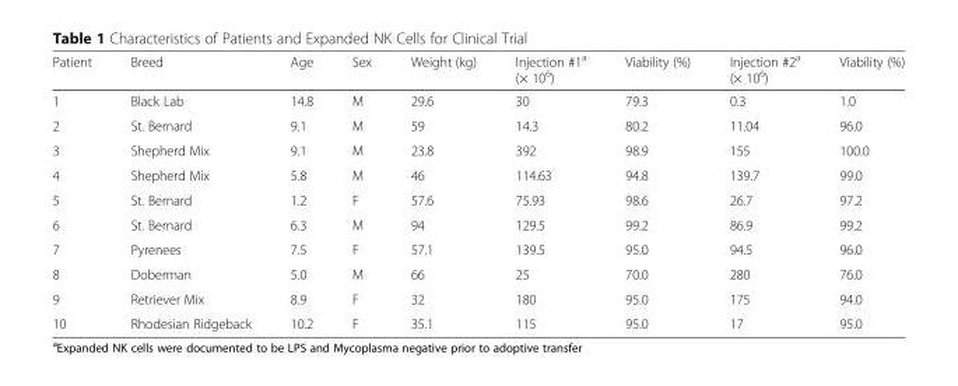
<table><thead><tr><td>Patient</td><td>Breed</td><td>Age</td><td>Sex</td><td>Weight (kg)</td><td>Injection #1<sup>a</sup> (× 10<sup>6</sup>)</td><td>Viability (%)</td><td>Injection #2<sup>a</sup> (× 10<sup>6</sup>)</td><td>Viability (%)</td></tr></thead><tbody><tr><td>1</td><td>Black Lab</td><td>14.8</td><td>M</td><td>29.6</td><td>30</td><td>79.3</td><td>0.3</td><td>1.0</td></tr><tr><td>2</td><td>St. Bernard</td><td>9.1</td><td>M</td><td>59</td><td>14.3</td><td>80.2</td><td>11.04</td><td>96.0</td></tr><tr><td>3</td><td>Shepherd Mix</td><td>9.1</td><td>M</td><td>23.8</td><td>392</td><td>98.9</td><td>155</td><td>100.0</td></tr><tr><td>4</td><td>Shepherd Mix</td><td>5.8</td><td>M</td><td>46</td><td>114.63</td><td>94.8</td><td>139.7</td><td>99.0</td></tr><tr><td>5</td><td>St. Bernard</td><td>1.2</td><td>F</td><td>57.6</td><td>75.93</td><td>98.6</td><td>26.7</td><td>97.2</td></tr><tr><td>6</td><td>St. Bernard</td><td>6.3</td><td>M</td><td>94</td><td>129.5</td><td>99.2</td><td>86.9</td><td>99.2</td></tr><tr><td>7</td><td>Pyrenees</td><td>7.5</td><td>F</td><td>57.1</td><td>139.5</td><td>95.0</td><td>94.5</td><td>96.0</td></tr><tr><td>8</td><td>Doberman</td><td>5.0</td><td>M</td><td>66</td><td>25</td><td>70.0</td><td>280</td><td>76.0</td></tr><tr><td>9</td><td>Retriever Mix</td><td>8.9</td><td>F</td><td>32</td><td>180</td><td>95.0</td><td>175</td><td>94.0</td></tr><tr><td>10</td><td>Rhodesian Ridgeback</td><td>10.2</td><td>F</td><td>35.1</td><td>115</td><td>95.0</td><td>17</td><td>95.0</td></tr></tbody></table>